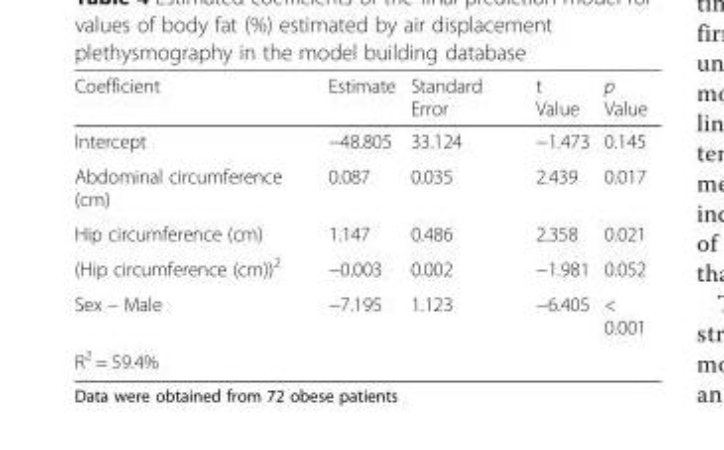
<table><thead><tr><td>Coefficient</td><td>Estimate</td><td>Standard Error</td><td>t Value</td><td>p Value</td></tr></thead><tbody><tr><td>Intercept</td><td>−48.805</td><td>33.124</td><td>−1.473</td><td>0.145</td></tr><tr><td>Abdominal circumference (cm)</td><td>0.087</td><td>0.035</td><td>2.439</td><td>0.017</td></tr><tr><td>Hip circumference (cm)</td><td>1.147</td><td>0.486</td><td>2.358</td><td>0.021</td></tr><tr><td>(Hip circumference (cm))<sup>2</sup></td><td>−0.003</td><td>0.002</td><td>−1.981</td><td>0.052</td></tr><tr><td>Sex – Male</td><td>−7.195</td><td>1.123</td><td>−6.405</td><td>&lt; 0.001</td></tr><tr><td>R<sup>2</sup> = 59.4%</td><td></td><td></td><td></td><td></td></tr></tbody></table>